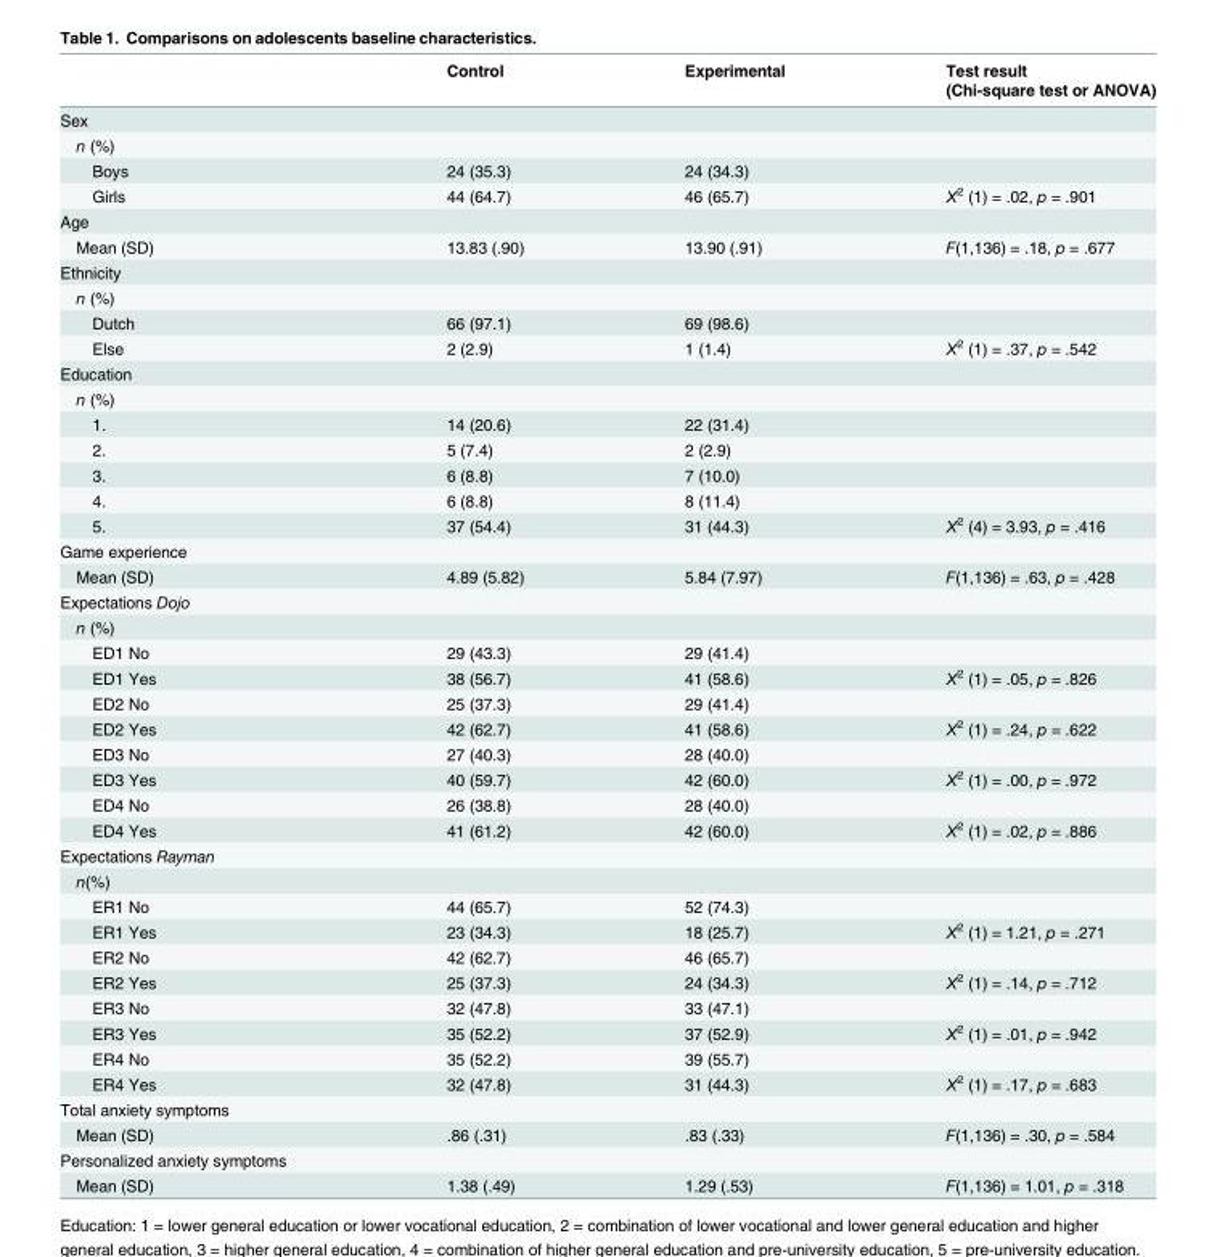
<table><thead><tr><td rowspan="2"></td><td rowspan="2">Control</td><td rowspan="2">Experimental</td><td rowspan="2">Test result (Chi-square test or ANOVA)</td></tr><tr></tr></thead><tbody><tr><td colspan="4">Sex</td></tr><tr><td colspan="4">n (%)</td></tr><tr><td>Boys</td><td>24 (35.3)</td><td>24 (34.3)</td><td></td></tr><tr><td>Girls</td><td>44 (64.7)</td><td>46 (65.7)</td><td>Χ<sup>2</sup> (1) = .02, p = .901</td></tr><tr><td colspan="4">Age</td></tr><tr><td>Mean (SD)</td><td>13.83 (.90)</td><td>13.90 (.91)</td><td>F(1,136) = .18, p = .677</td></tr><tr><td colspan="4">Ethnicity</td></tr><tr><td colspan="4">n (%)</td></tr><tr><td>Dutch</td><td>66 (97.1)</td><td>69 (98.6)</td><td></td></tr><tr><td>Else</td><td>2 (2.9)</td><td>1 (1.4)</td><td>Χ<sup>2</sup> (1) = .37, p = .542</td></tr><tr><td colspan="4">Education</td></tr><tr><td colspan="4">n (%)</td></tr><tr><td>1.</td><td>14 (20.6)</td><td>22 (31.4)</td><td></td></tr><tr><td>2.</td><td>5 (7.4)</td><td>2 (2.9)</td><td></td></tr><tr><td>3.</td><td>6 (8.8)</td><td>7 (10.0)</td><td></td></tr><tr><td>4.</td><td>6 (8.8)</td><td>8 (11.4)</td><td></td></tr><tr><td>5.</td><td>37 (54.4)</td><td>31 (44.3)</td><td>Χ<sup>2</sup> (4) = 3.93, p = .416</td></tr><tr><td colspan="4">Game experience</td></tr><tr><td>Mean (SD)</td><td>4.89 (5.82)</td><td>5.84 (7.97)</td><td>F(1,136) = .63, p = .428</td></tr><tr><td colspan="4">Expectations Dojo</td></tr><tr><td colspan="4">n (%)</td></tr><tr><td>ED1 No</td><td>29 (43.3)</td><td>29 (41.4)</td><td></td></tr><tr><td>ED1 Yes</td><td>38 (56.7)</td><td>41 (58.6)</td><td>Χ<sup>2</sup> (1) = .05, p = .826</td></tr><tr><td>ED2 No</td><td>25 (37.3)</td><td>29 (41.4)</td><td></td></tr><tr><td>ED2 Yes</td><td>42 (62.7)</td><td>41 (58.6)</td><td>Χ<sup>2</sup> (1) = .24, p = .622</td></tr><tr><td>ED3 No</td><td>27 (40.3)</td><td>28 (40.0)</td><td></td></tr><tr><td>ED3 Yes</td><td>40 (59.7)</td><td>42 (60.0)</td><td>Χ<sup>2</sup> (1) = .00, p = .972</td></tr><tr><td>ED4 No</td><td>26 (38.8)</td><td>28 (40.0)</td><td></td></tr><tr><td>ED4 Yes</td><td>41 (61.2)</td><td>42 (60.0)</td><td>Χ<sup>2</sup> (1) = .02, p = .886</td></tr><tr><td colspan="4">Expectations Rayman</td></tr><tr><td colspan="4">n(%)</td></tr><tr><td>ER1 No</td><td>44 (65.7)</td><td>52 (74.3)</td><td></td></tr><tr><td>ER1 Yes</td><td>23 (34.3)</td><td>18 (25.7)</td><td>Χ<sup>2</sup> (1) = 1.21, p = .271</td></tr><tr><td>ER2 No</td><td>42 (62.7)</td><td>46 (65.7)</td><td></td></tr><tr><td>ER2 Yes</td><td>25 (37.3)</td><td>24 (34.3)</td><td>Χ<sup>2</sup> (1) = .14, p = .712</td></tr><tr><td>ER3 No</td><td>32 (47.8)</td><td>33 (47.1)</td><td></td></tr><tr><td>ER3 Yes</td><td>35 (52.2)</td><td>37 (52.9)</td><td>Χ<sup>2</sup> (1) = .01, p = .942</td></tr><tr><td>ER4 No</td><td>35 (52.2)</td><td>39 (55.7)</td><td></td></tr><tr><td>ER4 Yes</td><td>32 (47.8)</td><td>31 (44.3)</td><td>Χ<sup>2</sup> (1) = .17, p = .683</td></tr><tr><td colspan="4">Total anxiety symptoms</td></tr><tr><td>Mean (SD)</td><td>.86 (.31)</td><td>.83 (.33)</td><td>F(1,136) = .30, p = .584</td></tr><tr><td colspan="4">Personalized anxiety symptoms</td></tr><tr><td>Mean (SD)</td><td>1.38 (.49)</td><td>1.29 (.53)</td><td>F(1,136) = 1.01, p = .318</td></tr></tbody></table>